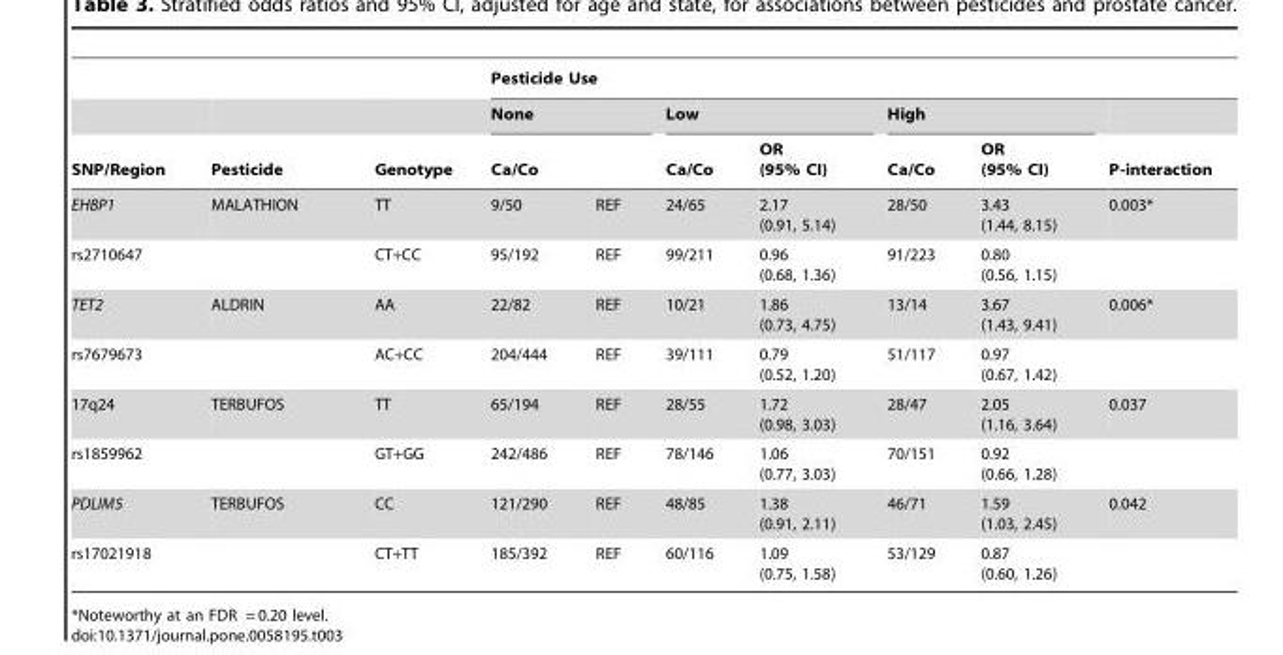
<table><thead><tr><td rowspan="3">SNP/Region</td><td rowspan="3">Pesticide</td><td rowspan="3">Genotype</td><td colspan="7">Pesticide Use</td></tr><tr><td colspan="2">None</td><td colspan="2">Low</td><td colspan="2">High</td><td rowspan="2">P-interaction</td></tr><tr><td>Ca/Co</td><td></td><td>Ca/Co</td><td>OR (95% CI)</td><td>Ca/Co</td><td>OR (95% CI)</td></tr></thead><tbody><tr><td>EHBP1</td><td>MALATHION</td><td>TT</td><td>9/50</td><td>REF</td><td>24/65</td><td>2.17 (0.91, 5.14)</td><td>28/50</td><td>3.43 (1.44, 8.15)</td><td>0.003*</td></tr><tr><td>rs2710647</td><td></td><td>CT+CC</td><td>95/192</td><td>REF</td><td>99/211</td><td>0.96 (0.68, 1.36)</td><td>91/223</td><td>0.80 (0.56, 1.15)</td><td></td></tr><tr><td>TET2</td><td>ALDRIN</td><td>AA</td><td>22/82</td><td>REF</td><td>10/21</td><td>1.86 (0.73, 4.75)</td><td>13/14</td><td>3.67 (1.43, 9.41)</td><td>0.006*</td></tr><tr><td>rs7679673</td><td></td><td>AC+CC</td><td>204/444</td><td>REF</td><td>39/111</td><td>0.79 (0.52, 1.20)</td><td>51/117</td><td>0.97 (0.67, 1.42)</td><td></td></tr><tr><td>17q24</td><td>TERBUFOS</td><td>TT</td><td>65/194</td><td>REF</td><td>28/55</td><td>1.72 (0.98, 3.03)</td><td>28/47</td><td>2.05 (1.16, 3.64)</td><td>0.037</td></tr><tr><td>rs1859962</td><td></td><td>GT+GG</td><td>242/486</td><td>REF</td><td>78/146</td><td>1.06 (0.77, 3.03)</td><td>70/151</td><td>0.92 (0.66, 1.28)</td><td></td></tr><tr><td>PDLIM5</td><td>TERBUFOS</td><td>CC</td><td>121/290</td><td>REF</td><td>48/85</td><td>1.38 (0.91, 2.11)</td><td>46/71</td><td>1.59 (1.03, 2.45)</td><td>0.042</td></tr><tr><td>rs17021918</td><td></td><td>CT+TT</td><td>185/392</td><td>REF</td><td>60/116</td><td>1.09 (0.75, 1.58)</td><td>53/129</td><td>0.87 (0.60, 1.26)</td><td></td></tr></tbody></table>